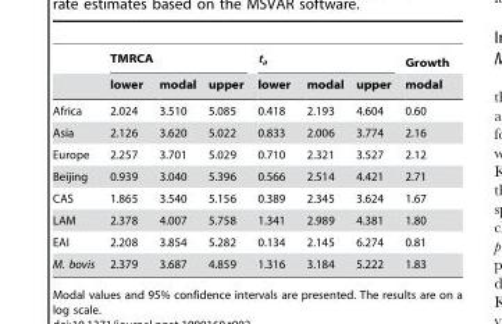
<table><thead><tr><td rowspan="2"></td><td colspan="3">TMRCA</td><td colspan="3">t<sub>a</sub></td><td rowspan="2">Growth modal</td></tr><tr><td>lower</td><td>modal</td><td>upper</td><td>lower</td><td>modal</td><td>upper</td></tr></thead><tbody><tr><td>Africa</td><td>2.024</td><td>3.510</td><td>5.085</td><td>0.418</td><td>2.193</td><td>4.604</td><td>0.60</td></tr><tr><td>Asia</td><td>2.126</td><td>3.620</td><td>5.022</td><td>0.833</td><td>2.006</td><td>3.774</td><td>2.16</td></tr><tr><td>Europe</td><td>2.257</td><td>3.701</td><td>5.029</td><td>0.710</td><td>2.321</td><td>3.527</td><td>2.12</td></tr><tr><td>Beijing</td><td>0.939</td><td>3.040</td><td>5.396</td><td>0.566</td><td>2.514</td><td>4.421</td><td>2.71</td></tr><tr><td>CAS</td><td>1.865</td><td>3.540</td><td>5.156</td><td>0.389</td><td>2.345</td><td>3.624</td><td>1.67</td></tr><tr><td>LAM</td><td>2.378</td><td>4.007</td><td>5.758</td><td>1.341</td><td>2.989</td><td>4.381</td><td>1.80</td></tr><tr><td>EAI</td><td>2.208</td><td>3.854</td><td>5.282</td><td>0.134</td><td>2.145</td><td>6.274</td><td>0.81</td></tr><tr><td>M. bovis</td><td>2.379</td><td>3.687</td><td>4.859</td><td>1.316</td><td>3.184</td><td>5.222</td><td>1.83</td></tr></tbody></table>